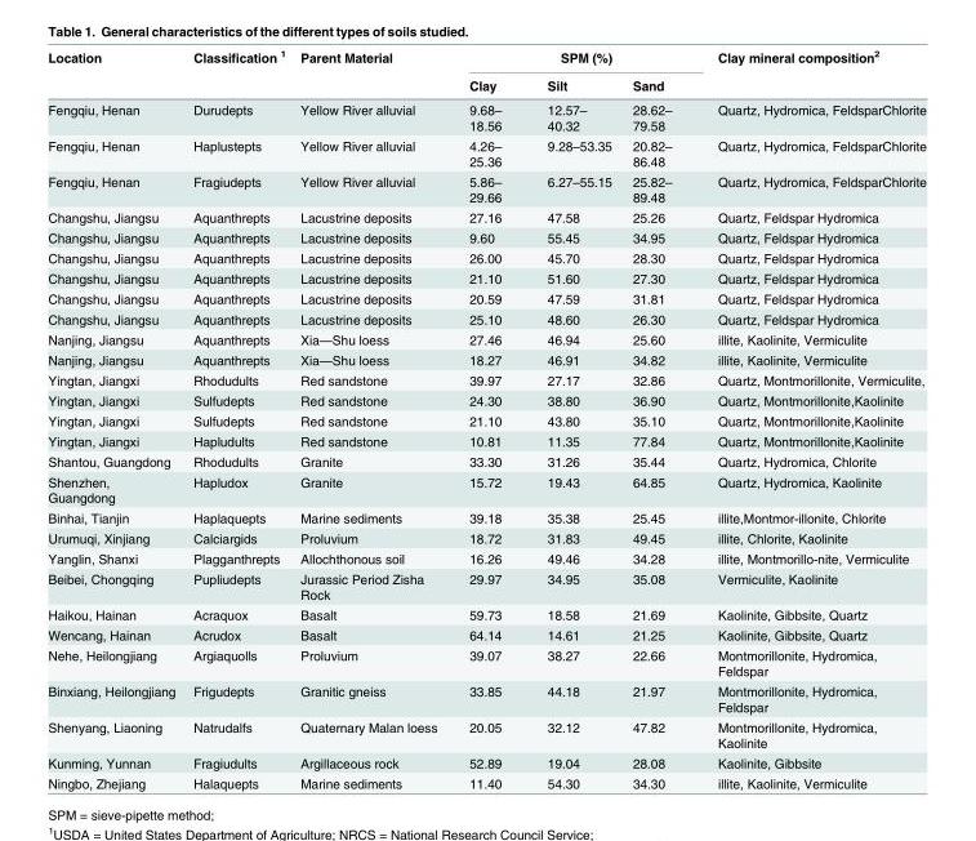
<table><thead><tr><td rowspan="2">Location</td><td rowspan="2">Classification <sup>1</sup></td><td rowspan="2">Parent Material</td><td colspan="3">SPM (%)</td><td rowspan="2">Clay mineral composition<sup>2</sup></td></tr><tr><td>Clay</td><td>Silt</td><td>Sand</td></tr></thead><tbody><tr><td>Fengqiu, Henan</td><td>Durudepts</td><td>Yellow River alluvial</td><td>9.68– 18.56</td><td>12.57– 40.32</td><td>28.62– 79.58</td><td>Quartz, Hydromica, FeldsparChlorite</td></tr><tr><td>Fengqiu, Henan</td><td>Haplustepts</td><td>Yellow River alluvial</td><td>4.26– 25.36</td><td>9.28–53.35</td><td>20.82– 86.48</td><td>Quartz, Hydromica, FeldsparChlorite</td></tr><tr><td>Fengqiu, Henan</td><td>Fragiudepts</td><td>Yellow River alluvial</td><td>5.86– 29.66</td><td>6.27–55.15</td><td>25.82– 89.48</td><td>Quartz, Hydromica, FeldsparChlorite</td></tr><tr><td>Changshu, Jiangsu</td><td>Aquanthrepts</td><td>Lacustrine deposits</td><td>27.16</td><td>47.58</td><td>25.26</td><td>Quartz, Feldspar Hydromica</td></tr><tr><td>Changshu, Jiangsu</td><td>Aquanthrepts</td><td>Lacustrine deposits</td><td>9.60</td><td>55.45</td><td>34.95</td><td>Quartz, Feldspar Hydromica</td></tr><tr><td>Changshu, Jiangsu</td><td>Aquanthrepts</td><td>Lacustrine deposits</td><td>26.00</td><td>45.70</td><td>28.30</td><td>Quartz, Feldspar Hydromica</td></tr><tr><td>Changshu, Jiangsu</td><td>Aquanthrepts</td><td>Lacustrine deposits</td><td>21.10</td><td>51.60</td><td>27.30</td><td>Quartz, Feldspar Hydromica</td></tr><tr><td>Changshu, Jiangsu</td><td>Aquanthrepts</td><td>Lacustrine deposits</td><td>20.59</td><td>47.59</td><td>31.81</td><td>Quartz, Feldspar Hydromica</td></tr><tr><td>Changshu, Jiangsu</td><td>Aquanthrepts</td><td>Lacustrine deposits</td><td>25.10</td><td>48.60</td><td>26.30</td><td>Quartz, Feldspar Hydromica</td></tr><tr><td>Nanjing, Jiangsu</td><td>Aquanthrepts</td><td>Xia—Shu loess</td><td>27.46</td><td>46.94</td><td>25.60</td><td>illite, Kaolinite, Vermiculite</td></tr><tr><td>Nanjing, Jiangsu</td><td>Aquanthrepts</td><td>Xia—Shu loess</td><td>18.27</td><td>46.91</td><td>34.82</td><td>illite, Kaolinite, Vermiculite</td></tr><tr><td>Yingtan, Jiangxi</td><td>Rhodudults</td><td>Red sandstone</td><td>39.97</td><td>27.17</td><td>32.86</td><td>Quartz, Montmorillonite, Vermiculite,</td></tr><tr><td>Yingtan, Jiangxi</td><td>Sulfudepts</td><td>Red sandstone</td><td>24.30</td><td>38.80</td><td>36.90</td><td>Quartz, Montmorillonite,Kaolinite</td></tr><tr><td>Yingtan, Jiangxi</td><td>Sulfudepts</td><td>Red sandstone</td><td>21.10</td><td>43.80</td><td>35.10</td><td>Quartz, Montmorillonite,Kaolinite</td></tr><tr><td>Yingtan, Jiangxi</td><td>Hapludults</td><td>Red sandstone</td><td>10.81</td><td>11.35</td><td>77.84</td><td>Quartz, Montmorillonite,Kaolinite</td></tr><tr><td>Shantou, Guangdong</td><td>Rhodudults</td><td>Granite</td><td>33.30</td><td>31.26</td><td>35.44</td><td>Quartz, Hydromica, Chlorite</td></tr><tr><td>Shenzhen, Guangdong</td><td>Hapludox</td><td>Granite</td><td>15.72</td><td>19.43</td><td>64.85</td><td>Quartz, Hydromica, Kaolinite</td></tr><tr><td>Binhai, Tianjin</td><td>Haplaquepts</td><td>Marine sediments</td><td>39.18</td><td>35.38</td><td>25.45</td><td>illite,Montmor-illonite, Chlorite</td></tr><tr><td>Urumuqi, Xinjiang</td><td>Calciargids</td><td>Proluvium</td><td>18.72</td><td>31.83</td><td>49.45</td><td>illite, Chlorite, Kaolinite</td></tr><tr><td>Yanglin, Shanxi</td><td>Plagganthrepts</td><td>Allochthonous soil</td><td>16.26</td><td>49.46</td><td>34.28</td><td>illite, Montmorillo-nite, Vermiculite</td></tr><tr><td>Beibei, Chongqing</td><td>Pupliudepts</td><td>Jurassic Period Zisha Rock</td><td>29.97</td><td>34.95</td><td>35.08</td><td>Vermiculite, Kaolinite</td></tr><tr><td>Haikou, Hainan</td><td>Acraquox</td><td>Basalt</td><td>59.73</td><td>18.58</td><td>21.69</td><td>Kaolinite, Gibbsite, Quartz</td></tr><tr><td>Wencang, Hainan</td><td>Acrudox</td><td>Basalt</td><td>64.14</td><td>14.61</td><td>21.25</td><td>Kaolinite, Gibbsite, Quartz</td></tr><tr><td>Nehe, Heilongjiang</td><td>Argiaquolls</td><td>Proluvium</td><td>39.07</td><td>38.27</td><td>22.66</td><td>Montmorillonite, Hydromica, Feldspar</td></tr><tr><td>Binxiang, Heilongjiang</td><td>Frigudepts</td><td>Granitic gneiss</td><td>33.85</td><td>44.18</td><td>21.97</td><td>Montmorillonite, Hydromica, Feldspar</td></tr><tr><td>Shenyang, Liaoning</td><td>Natrudalfs</td><td>Quaternary Malan loess</td><td>20.05</td><td>32.12</td><td>47.82</td><td>Montmorillonite, Hydromica, Kaolinite</td></tr><tr><td>Kunming, Yunnan</td><td>Fragiudults</td><td>Argillaceous rock</td><td>52.89</td><td>19.04</td><td>28.08</td><td>Kaolinite, Gibbsite</td></tr><tr><td>Ningbo, Zhejiang</td><td>Halaquepts</td><td>Marine sediments</td><td>11.40</td><td>54.30</td><td>34.30</td><td>illite, Kaolinite, Vermiculite</td></tr></tbody></table>